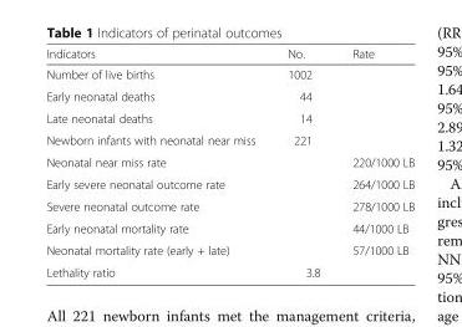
<table><thead><tr><td>Indicators</td><td>No.</td><td>Rate</td></tr></thead><tbody><tr><td>Number of live births</td><td>1002</td><td></td></tr><tr><td>Early neonatal deaths</td><td>44</td><td></td></tr><tr><td>Late neonatal deaths</td><td>14</td><td></td></tr><tr><td>Newborn infants with neonatal near miss</td><td>221</td><td></td></tr><tr><td>Neonatal near miss rate</td><td></td><td>220/1000 LB</td></tr><tr><td>Early severe neonatal outcome rate</td><td></td><td>264/1000 LB</td></tr><tr><td>Severe neonatal outcome rate</td><td></td><td>278/1000 LB</td></tr><tr><td>Early neonatal mortality rate</td><td></td><td>44/1000 LB</td></tr><tr><td>Neonatal mortality rate (early + late)</td><td></td><td>57/1000 LB</td></tr><tr><td>Lethality ratio</td><td>3.8</td><td></td></tr></tbody></table>